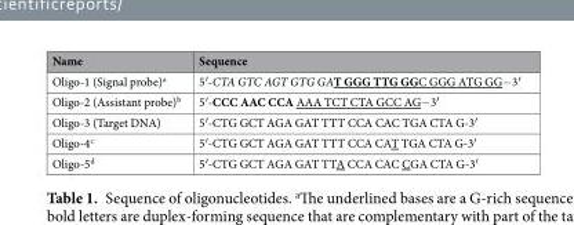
<table><thead><tr><td>Name</td><td>Sequence</td></tr></thead><tbody><tr><td>Oligo-1 (Signal probe)<sup>a</sup></td><td>5′-CTA GTC AGT GTG GAT GGG TTG GGC GGG ATG GG−3′</td></tr><tr><td>Oligo-2 (Assistant probe)<sup>b</sup></td><td>5′-CCC AAC CCA AAA TCT CTA GCC AG−3′</td></tr><tr><td>Oligo-3 (Target DNA)</td><td>5′-CTG GCT AGA GAT TTT CCA CAC TGA CTA G-3′</td></tr><tr><td>Oligo-4<sup>c</sup></td><td>5′-CTG GCT AGA GAT TTT CCA CAT TGA CTA G-3′</td></tr><tr><td>Oligo-5<sup>d</sup></td><td>5′-CTG GCT AGA GAT TTA CCA CAC CGA CTA G-3′</td></tr></tbody></table>